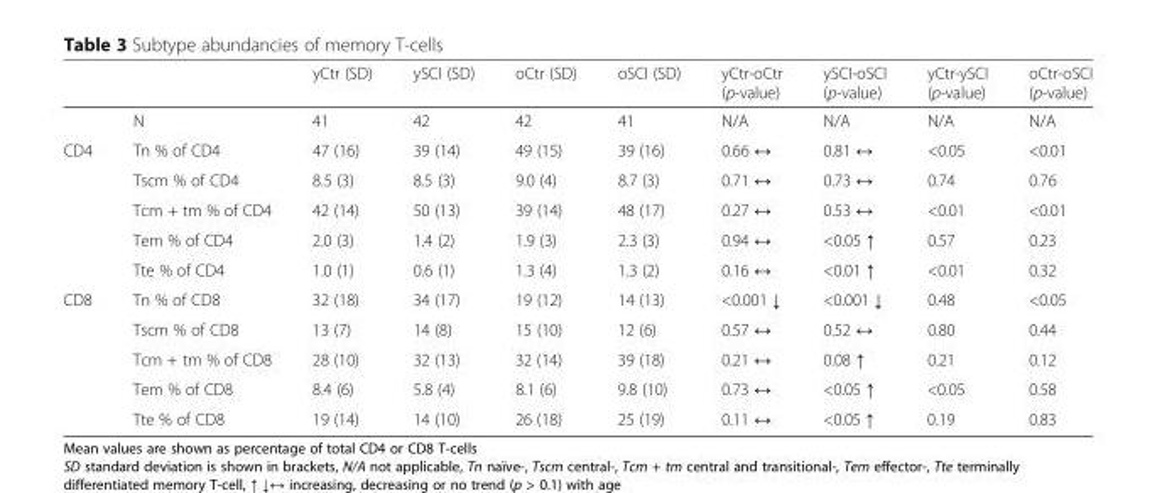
<table><thead><tr><td></td><td></td><td>yCtr (SD)</td><td>ySCI (SD)</td><td>oCtr (SD)</td><td>oSCI (SD)</td><td>yCtr-oCtr (p-value)</td><td>ySCI-oSCI (p-value)</td><td>yCtr-ySCI (p-value)</td><td>oCtr-oSCI (p-value)</td></tr></thead><tbody><tr><td></td><td>N</td><td>41</td><td>42</td><td>42</td><td>41</td><td>N/A</td><td>N/A</td><td>N/A</td><td>N/A</td></tr><tr><td rowspan="5">CD4</td><td>Tn % of CD4</td><td>47 (16)</td><td>39 (14)</td><td>49 (15)</td><td>39 (16)</td><td>0.66 ↔</td><td>0.81 ↔</td><td>&lt;0.05</td><td>&lt;0.01</td></tr><tr><td>Tscm % of CD4</td><td>8.5 (3)</td><td>8.5 (3)</td><td>9.0 (4)</td><td>8.7 (3)</td><td>0.71 ↔</td><td>0.73 ↔</td><td>0.74</td><td>0.76</td></tr><tr><td>Tcm + tm % of CD4</td><td>42 (14)</td><td>50 (13)</td><td>39 (14)</td><td>48 (17)</td><td>0.27 ↔</td><td>0.53 ↔</td><td>&lt;0.01</td><td>&lt;0.01</td></tr><tr><td>Tem % of CD4</td><td>2.0 (3)</td><td>1.4 (2)</td><td>1.9 (3)</td><td>2.3 (3)</td><td>0.94 ↔</td><td>&lt;0.05 ↑</td><td>0.57</td><td>0.23</td></tr><tr><td>Tte % of CD4</td><td>1.0 (1)</td><td>0.6 (1)</td><td>1.3 (4)</td><td>1.3 (2)</td><td>0.16 ↔</td><td>&lt;0.01 ↑</td><td>&lt;0.01</td><td>0.32</td></tr><tr><td rowspan="5">CD8</td><td>Tn % of CD8</td><td>32 (18)</td><td>34 (17)</td><td>19 (12)</td><td>14 (13)</td><td>&lt;0.001 ↓</td><td>&lt;0.001 ↓</td><td>0.48</td><td>&lt;0.05</td></tr><tr><td>Tscm % of CD8</td><td>13 (7)</td><td>14 (8)</td><td>15 (10)</td><td>12 (6)</td><td>0.57 ↔</td><td>0.52 ↔</td><td>0.80</td><td>0.44</td></tr><tr><td>Tcm + tm % of CD8</td><td>28 (10)</td><td>32 (13)</td><td>32 (14)</td><td>39 (18)</td><td>0.21 ↔</td><td>0.08 ↑</td><td>0.21</td><td>0.12</td></tr><tr><td>Tem % of CD8</td><td>8.4 (6)</td><td>5.8 (4)</td><td>8.1 (6)</td><td>9.8 (10)</td><td>0.73 ↔</td><td>&lt;0.05 ↑</td><td>&lt;0.05</td><td>0.58</td></tr><tr><td>Tte % of CD8</td><td>19 (14)</td><td>14 (10)</td><td>26 (18)</td><td>25 (19)</td><td>0.11 ↔</td><td>&lt;0.05 ↑</td><td>0.19</td><td>0.83</td></tr></tbody></table>